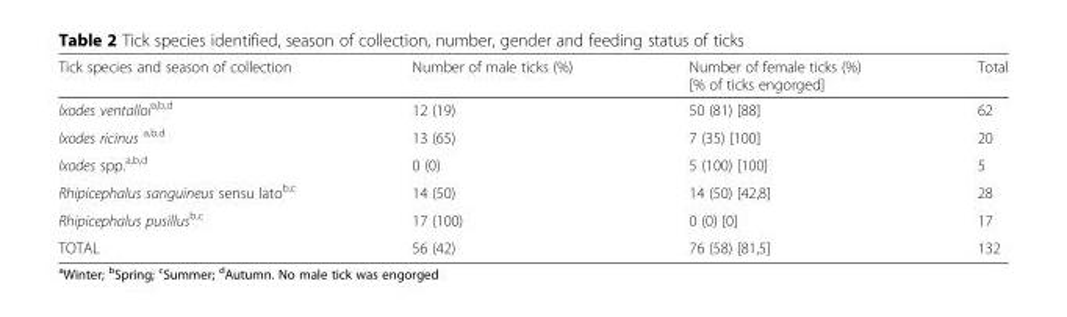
<table><thead><tr><td>Tick species and season of collection</td><td>Number of male ticks (%)</td><td>Number of female ticks (%) [% of ticks engorged]</td><td>Total</td></tr></thead><tbody><tr><td>Ixodes ventalloi<sup>a,b,d</sup></td><td>12 (19)</td><td>50 (81) [88]</td><td>62</td></tr><tr><td>Ixodes ricinus <sup>a,b,d</sup></td><td>13 (65)</td><td>7 (35) [100]</td><td>20</td></tr><tr><td>Ixodes spp.<sup>a,b,d</sup></td><td>0 (0)</td><td>5 (100) [100]</td><td>5</td></tr><tr><td>Rhipicephalus sanguineus sensu lato<sup>b,c</sup></td><td>14 (50)</td><td>14 (50) [42,8]</td><td>28</td></tr><tr><td>Rhipicephalus pusillus<sup>b,c</sup></td><td>17 (100)</td><td>0 (0) [0]</td><td>17</td></tr><tr><td>TOTAL</td><td>56 (42)</td><td>76 (58) [81,5]</td><td>132</td></tr></tbody></table>